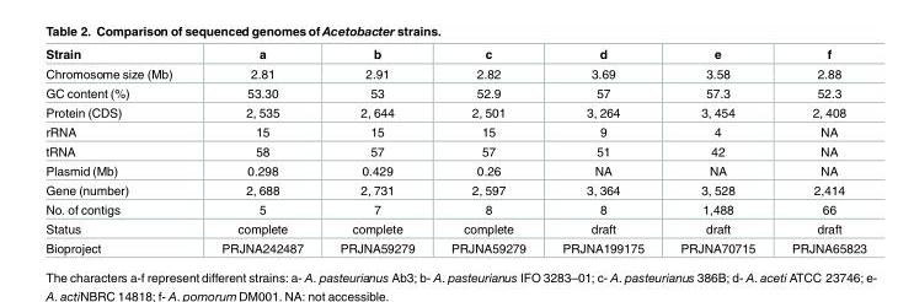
<table><thead><tr><td>Strain</td><td>a</td><td>b</td><td>c</td><td>d</td><td>e</td><td>f</td></tr></thead><tbody><tr><td>Chromosome size (Mb)</td><td>2.81</td><td>2.91</td><td>2.82</td><td>3.69</td><td>3.58</td><td>2.88</td></tr><tr><td>GC content (%)</td><td>53.30</td><td>53</td><td>52.9</td><td>57</td><td>57.3</td><td>52.3</td></tr><tr><td>Protein (CDS)</td><td>2, 535</td><td>2, 644</td><td>2, 501</td><td>3, 264</td><td>3, 454</td><td>2, 408</td></tr><tr><td>rRNA</td><td>15</td><td>15</td><td>15</td><td>9</td><td>4</td><td>NA</td></tr><tr><td>tRNA</td><td>58</td><td>57</td><td>57</td><td>51</td><td>42</td><td>NA</td></tr><tr><td>Plasmid (Mb)</td><td>0.298</td><td>0.429</td><td>0.26</td><td>NA</td><td>NA</td><td>NA</td></tr><tr><td>Gene (number)</td><td>2, 688</td><td>2, 731</td><td>2, 597</td><td>3, 364</td><td>3, 528</td><td>2,414</td></tr><tr><td>No. of contigs</td><td>5</td><td>7</td><td>8</td><td>8</td><td>1,488</td><td>66</td></tr><tr><td>Status</td><td>complete</td><td>complete</td><td>complete</td><td>draft</td><td>draft</td><td>draft</td></tr><tr><td>Bioproject</td><td>PRJNA242487</td><td>PRJNA59279</td><td>PRJNA59279</td><td>PRJNA199175</td><td>PRJNA70715</td><td>PRJNA65823</td></tr></tbody></table>